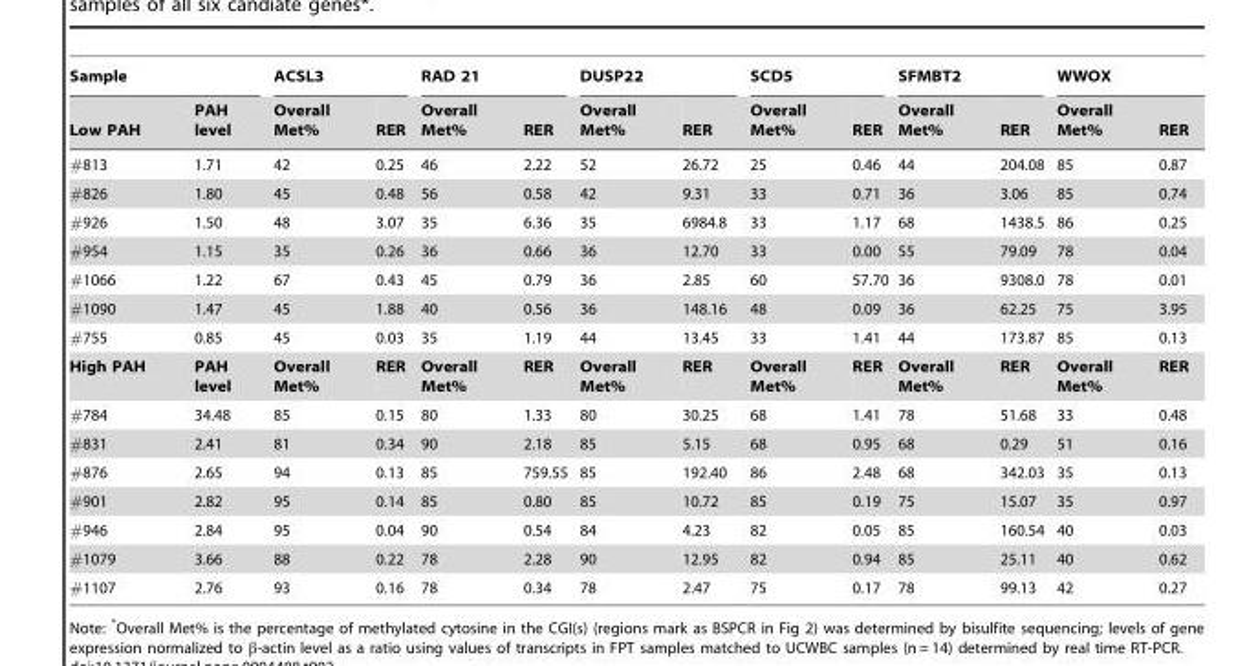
<table><thead><tr><td colspan="2">Sample</td><td colspan="2">ACSL3</td><td colspan="2">RAD 21</td><td colspan="2">DUSP22</td><td colspan="2">SCD5</td><td colspan="2">SFMBT2</td><td colspan="2">WWOX</td></tr><tr><td>Low PAH</td><td>PAH level</td><td>Overall Met%</td><td>RER</td><td>Overall Met%</td><td>RER</td><td>Overall Met%</td><td>RER</td><td>Overall Met%</td><td>RER</td><td>Overall Met%</td><td>RER</td><td>Overall Met%</td><td>RER</td></tr></thead><tbody><tr><td>#813</td><td>1.71</td><td>42</td><td>0.25</td><td>46</td><td>2.22</td><td>52</td><td>26.72</td><td>25</td><td>0.46</td><td>44</td><td>204.08</td><td>85</td><td>0.87</td></tr><tr><td>#826</td><td>1.80</td><td>45</td><td>0.48</td><td>56</td><td>0.58</td><td>42</td><td>9.31</td><td>33</td><td>0.71</td><td>36</td><td>3.06</td><td>85</td><td>0.74</td></tr><tr><td>#926</td><td>1.50</td><td>48</td><td>3.07</td><td>35</td><td>6.36</td><td>35</td><td>6984.8</td><td>33</td><td>1.17</td><td>68</td><td>1438.5</td><td>86</td><td>0.25</td></tr><tr><td>#954</td><td>1.15</td><td>35</td><td>0.26</td><td>36</td><td>0.66</td><td>36</td><td>12.70</td><td>33</td><td>0.00</td><td>55</td><td>79.09</td><td>78</td><td>0.04</td></tr><tr><td>#1066</td><td>1.22</td><td>67</td><td>0.43</td><td>45</td><td>0.79</td><td>36</td><td>2.85</td><td>60</td><td>57.70</td><td>36</td><td>9308.0</td><td>78</td><td>0.01</td></tr><tr><td>#1090</td><td>1.47</td><td>45</td><td>1.88</td><td>40</td><td>0.56</td><td>36</td><td>148.16</td><td>48</td><td>0.09</td><td>36</td><td>62.25</td><td>75</td><td>3.95</td></tr><tr><td>#755</td><td>0.85</td><td>45</td><td>0.03</td><td>35</td><td>1.19</td><td>44</td><td>13.45</td><td>33</td><td>1.41</td><td>44</td><td>173.87</td><td>85</td><td>0.13</td></tr><tr><td>High PAH</td><td>PAH level</td><td>Overall Met%</td><td>RER</td><td>Overall Met%</td><td>RER</td><td>Overall Met%</td><td>RER</td><td>Overall Met%</td><td>RER</td><td>Overall Met%</td><td>RER</td><td>Overall Met%</td><td>RER</td></tr><tr><td>#784</td><td>34.48</td><td>85</td><td>0.15</td><td>80</td><td>1.33</td><td>80</td><td>30.25</td><td>68</td><td>1.41</td><td>78</td><td>51.68</td><td>33</td><td>0.48</td></tr><tr><td>#831</td><td>2.41</td><td>81</td><td>0.34</td><td>90</td><td>2.18</td><td>85</td><td>5.15</td><td>68</td><td>0.95</td><td>68</td><td>0.29</td><td>51</td><td>0.16</td></tr><tr><td>#876</td><td>2.65</td><td>94</td><td>0.13</td><td>85</td><td>759.55</td><td>85</td><td>192.40</td><td>86</td><td>2.48</td><td>68</td><td>342.03</td><td>35</td><td>0.13</td></tr><tr><td>#901</td><td>2.82</td><td>95</td><td>0.14</td><td>85</td><td>0.80</td><td>85</td><td>10.72</td><td>85</td><td>0.19</td><td>75</td><td>15.07</td><td>35</td><td>0.97</td></tr><tr><td>#946</td><td>2.84</td><td>95</td><td>0.04</td><td>90</td><td>0.54</td><td>84</td><td>4.23</td><td>82</td><td>0.05</td><td>85</td><td>160.54</td><td>40</td><td>0.03</td></tr><tr><td>#1079</td><td>3.66</td><td>88</td><td>0.22</td><td>78</td><td>2.28</td><td>90</td><td>12.95</td><td>82</td><td>0.94</td><td>85</td><td>25.11</td><td>40</td><td>0.62</td></tr><tr><td>#1107</td><td>2.76</td><td>93</td><td>0.16</td><td>78</td><td>0.34</td><td>78</td><td>2.47</td><td>75</td><td>0.17</td><td>78</td><td>99.13</td><td>42</td><td>0.27</td></tr></tbody></table>